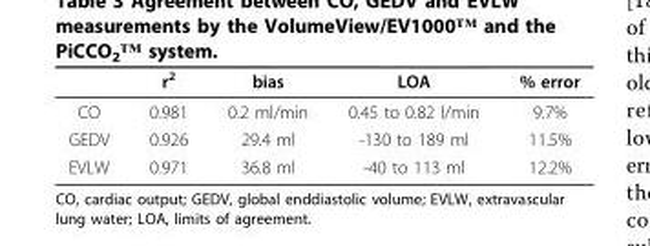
<table><thead><tr><td></td><td>r<sup>2</sup></td><td>bias</td><td>LOA</td><td>% error</td></tr></thead><tbody><tr><td>CO</td><td>0.981</td><td>0.2 ml/min</td><td>0.45 to 0.82 l/min</td><td>9.7%</td></tr><tr><td>GEDV</td><td>0.926</td><td>29.4 ml</td><td>-130 to 189 ml</td><td>11.5%</td></tr><tr><td>EVLW</td><td>0.971</td><td>36.8 ml</td><td>-40 to 113 ml</td><td>12.2%</td></tr></tbody></table>